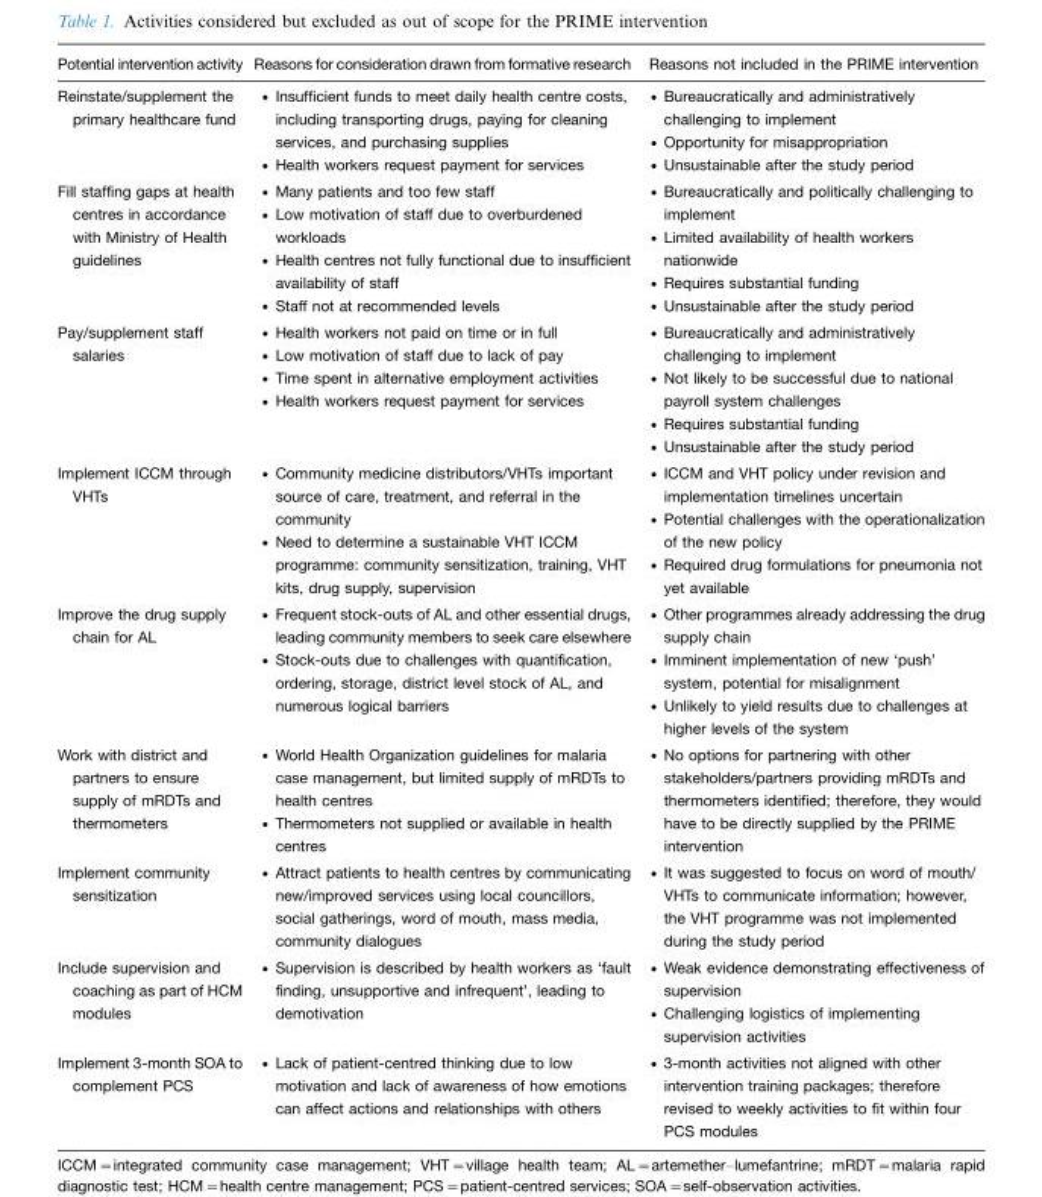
<table><thead><tr><td>Potential intervention activity</td><td>Reasons for consideration drawn from formative research</td><td>Reasons not included in the PRIME intervention</td></tr></thead><tbody><tr><td>Reinstate/supplement the primary healthcare fund</td><td>• Insufficient funds to meet daily health centre costs, including transporting drugs, paying for cleaning services, and purchasing supplies • Health workers request payment for services</td><td>• Bureaucratically and administratively challenging to implement • Opportunity for misappropriation • Unsustainable after the study period</td></tr><tr><td>Fill staffing gaps at health centres in accordance with Ministry of Health guidelines</td><td>• Many patients and too few staff • Low motivation of staff due to overburdened workloads • Health centres not fully functional due to insufficient availability of staff • Staff not at recommended levels</td><td>• Bureaucratically and politically challenging to implement • Limited availability of health workers nationwide • Requires substantial funding • Unsustainable after the study period</td></tr><tr><td>Pay/supplement staff salaries</td><td>• Health workers not paid on time or in full • Low motivation of staff due to lack of pay • Time spent in alternative employment activities • Health workers request payment for services</td><td>• Bureaucratically and administratively challenging to implement • Not likely to be successful due to national payroll system challenges • Requires substantial funding • Unsustainable after the study period</td></tr><tr><td>Implement ICCM through VHTs</td><td>• Community medicine distributors/VHTs important source of care, treatment, and referral in the community • Need to determine a sustainable VHT ICCM programme: community sensitization, training, VHT kits, drug supply, supervision</td><td>• ICCM and VHT policy under revision and implementation timelines uncertain • Potential challenges with the operationalization of the new policy • Required drug formulations for pneumonia not yet available</td></tr><tr><td>Improve the drug supply chain for AL</td><td>• Frequent stock-outs of AL and other essential drugs, leading community members to seek care elsewhere • Stock-outs due to challenges with quantification, ordering, storage, district level stock of AL, and numerous logical barriers</td><td>• Other programmes already addressing the drug supply chain • Imminent implementation of new ‘push’ system, potential for misalignment • Unlikely to yield results due to challenges at higher levels of the system</td></tr><tr><td>Work with district and partners to ensure supply of mRDTs and thermometers</td><td>• World Health Organization guidelines for malaria case management, but limited supply of mRDTs to health centres • Thermometers not supplied or available in health centres</td><td>• No options for partnering with other stakeholders/partners providing mRDTs and thermometers identified; therefore, they would have to be directly supplied by the PRIME intervention</td></tr><tr><td>Implement community sensitization</td><td>• Attract patients to health centres by communicating new/improved services using local councillors, social gatherings, word of mouth, mass media, community dialogues</td><td>• It was suggested to focus on word of mouth/ VHTs to communicate information; however, the VHT programme was not implemented during the study period</td></tr><tr><td>Include supervision and coaching as part of HCM modules</td><td>• Supervision is described by health workers as ‘fault finding, unsupportive and infrequent’, leading to demotivation</td><td>• Weak evidence demonstrating effectiveness of supervision • Challenging logistics of implementing supervision activities</td></tr><tr><td>Implement 3-month SOA to complement PCS</td><td>• Lack of patient-centred thinking due to low motivation and lack of awareness of how emotions can affect actions and relationships with others</td><td>• 3-month activities not aligned with other intervention training packages; therefore revised to weekly activities to fit within four PCS modules</td></tr></tbody></table>